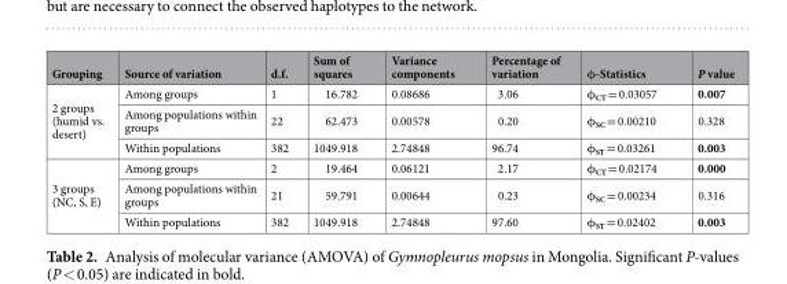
<table><thead><tr><td>Grouping</td><td>Source of variation</td><td>d.f.</td><td>Sum of squares</td><td>Variance components</td><td>Percentage of variation</td><td>φ-Statistics</td><td>P value</td></tr></thead><tbody><tr><td rowspan="3">2 groups (humid vs. desert)</td><td>Among groups</td><td>1</td><td>16.782</td><td>0.08686</td><td>3.06</td><td>φ<sub>CT</sub> = 0.03057</td><td>0.007</td></tr><tr><td>Among populations within groups</td><td>22</td><td>62.473</td><td>0.00578</td><td>0.20</td><td>φ<sub>SC</sub> = 0.00210</td><td>0.328</td></tr><tr><td>Within populations</td><td>382</td><td>1049.918</td><td>2.74848</td><td>96.74</td><td>φ<sub>ST</sub> = 0.03261</td><td>0.003</td></tr><tr><td rowspan="3">3 groups (NC, S, E)</td><td>Among groups</td><td>2</td><td>19.464</td><td>0.06121</td><td>2.17</td><td>φ<sub>CT</sub> = 0.02174</td><td>0.000</td></tr><tr><td>Among populations within groups</td><td>21</td><td>59.791</td><td>0.00644</td><td>0.23</td><td>φ<sub>SC</sub> = 0.00234</td><td>0.316</td></tr><tr><td>Within populations</td><td>382</td><td>1049.918</td><td>2.74848</td><td>97.60</td><td>φ<sub>ST</sub> = 0.02402</td><td>0.003</td></tr></tbody></table>